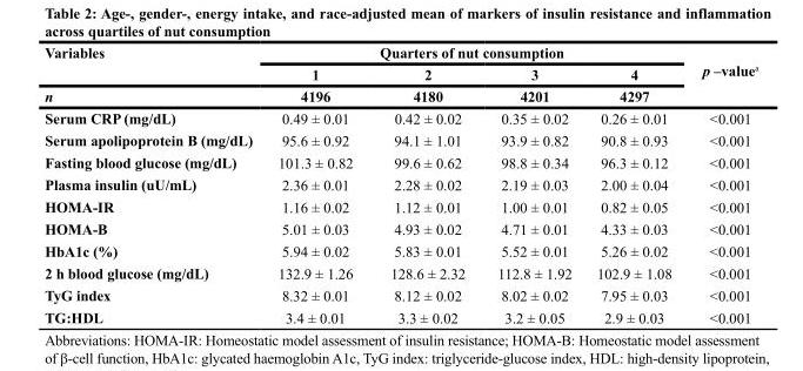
<table><thead><tr><td rowspan="3">Variables n</td><td colspan="4">Quarters of nut consumption</td><td rowspan="3">p –value<sup>a</sup></td></tr><tr><td rowspan="2">1 4196</td><td rowspan="2">2 4180</td><td rowspan="2">3 4201</td><td rowspan="2">4 4297</td></tr><tr></tr></thead><tbody><tr><td>serum crP (mg/dl)</td><td>0.49 ± 0.01</td><td>0.42 ± 0.02</td><td>0.35 ± 0.02</td><td>0.26 ± 0.01</td><td>&lt;0.001</td></tr><tr><td>serum apolipoprotein b (mg/dl)</td><td>95.6 ± 0.92</td><td>94.1 ± 1.01</td><td>93.9 ± 0.82</td><td>90.8 ± 0.93</td><td>&lt;0.001</td></tr><tr><td>Fasting blood glucose (mg/dl)</td><td>101.3 ± 0.82</td><td>99.6 ± 0.62</td><td>98.8 ± 0.34</td><td>96.3 ± 0.12</td><td>&lt;0.001</td></tr><tr><td>Plasma insulin (uu/ml)</td><td>2.36 ± 0.01</td><td>2.28 ± 0.02</td><td>2.19 ± 0.03</td><td>2.00 ± 0.04</td><td>&lt;0.001</td></tr><tr><td>HoMA-Ir</td><td>1.16 ± 0.02</td><td>1.12 ± 0.01</td><td>1.00 ± 0.01</td><td>0.82 ± 0.05</td><td>&lt;0.001</td></tr><tr><td>HoMA-b</td><td>5.01 ± 0.03</td><td>4.93 ± 0.02</td><td>4.71 ± 0.01</td><td>4.33 ± 0.03</td><td>&lt;0.001</td></tr><tr><td>HbA1c (%)</td><td>5.94 ± 0.02</td><td>5.83 ± 0.01</td><td>5.52 ± 0.01</td><td>5.26 ± 0.02</td><td>&lt;0.001</td></tr><tr><td>2 h blood glucose (mg/dl)</td><td>132.9 ± 1.26</td><td>128.6 ± 2.32</td><td>112.8 ± 1.92</td><td>102.9 ± 1.08</td><td>&lt;0.001</td></tr><tr><td>tyG index</td><td>8.32 ± 0.01</td><td>8.12 ± 0.02</td><td>8.02 ± 0.02</td><td>7.95 ± 0.03</td><td>&lt;0.001</td></tr><tr><td>tG:Hdl</td><td>3.4 ± 0.01</td><td>3.3 ± 0.02</td><td>3.2 ± 0.05</td><td>2.9 ± 0.03</td><td>&lt;0.001</td></tr></tbody></table>